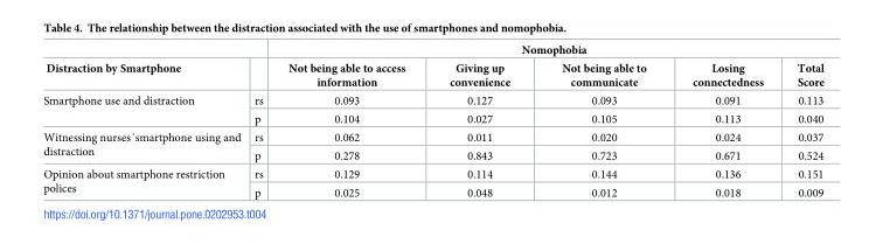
<table><thead><tr><td rowspan="2">Distraction by Smartphone</td><td rowspan="2"></td><td colspan="5">Nomophobia</td></tr><tr><td>Not being able to access information</td><td>Giving up convenience</td><td>Not being able to communicate</td><td>Losing connectedness</td><td>Total Score</td></tr></thead><tbody><tr><td rowspan="2">Smartphone use and distraction</td><td>rs</td><td>0.093</td><td>0.127</td><td>0.093</td><td>0.091</td><td>0.113</td></tr><tr><td>p</td><td>0.104</td><td>0.027</td><td>0.105</td><td>0.113</td><td>0.040</td></tr><tr><td rowspan="2">Witnessing nurses´smartphone using and distraction</td><td>rs</td><td>0.062</td><td>0.011</td><td>0.020</td><td>0.024</td><td>0.037</td></tr><tr><td>p</td><td>0.278</td><td>0.843</td><td>0.723</td><td>0.671</td><td>0.524</td></tr><tr><td rowspan="2">Opinion about smartphone restriction polices</td><td>rs</td><td>0.129</td><td>0.114</td><td>0.144</td><td>0.136</td><td>0.151</td></tr><tr><td>p</td><td>0.025</td><td>0.048</td><td>0.012</td><td>0.018</td><td>0.009</td></tr></tbody></table>